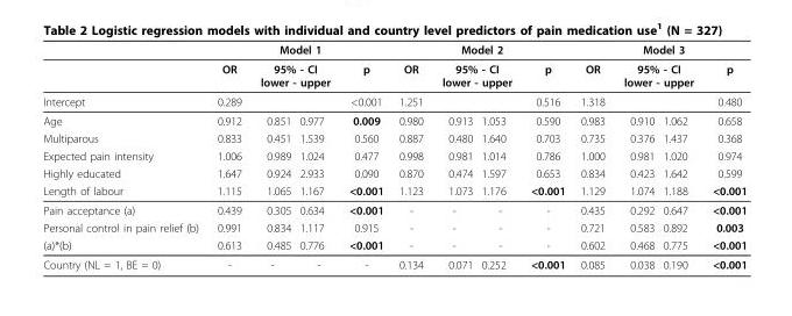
<table><thead><tr><td rowspan="3">Intercept</td><td colspan="4">Model 1</td><td colspan="4">Model 2</td><td colspan="4">Model 3</td></tr><tr><td rowspan="2">OR 0.289</td><td colspan="2">95% - CI lower - upper</td><td rowspan="2">p &lt;0.001</td><td rowspan="2">OR 1.251</td><td colspan="2">95% - CI lower - upper</td><td rowspan="2">p 0.516</td><td rowspan="2">OR 1.318</td><td colspan="2">95% - CI lower - upper</td><td rowspan="2">p 0.480</td></tr><tr><td></td><td></td><td></td><td></td><td></td><td></td></tr></thead><tbody><tr><td>Age</td><td>0.912</td><td>0.851</td><td>0.977</td><td>0.009</td><td>0.980</td><td>0.913</td><td>1.053</td><td>0.590</td><td>0.983</td><td>0.910</td><td>1.062</td><td>0.658</td></tr><tr><td>Multiparous</td><td>0.833</td><td>0.451</td><td>1.539</td><td>0.560</td><td>0.887</td><td>0.480</td><td>1.640</td><td>0.703</td><td>0.735</td><td>0.376</td><td>1.437</td><td>0.368</td></tr><tr><td>Expected pain intensity</td><td>1.006</td><td>0.989</td><td>1.024</td><td>0.477</td><td>0.998</td><td>0.981</td><td>1.014</td><td>0.786</td><td>1.000</td><td>0.981</td><td>1.020</td><td>0.974</td></tr><tr><td>Highly educated</td><td>1.647</td><td>0.924</td><td>2.933</td><td>0.090</td><td>0.870</td><td>0.474</td><td>1.597</td><td>0.653</td><td>0.834</td><td>0.423</td><td>1.642</td><td>0.599</td></tr><tr><td>Length of labour</td><td>1.115</td><td>1.065</td><td>1.167</td><td>&lt;0.001</td><td>1.123</td><td>1.073</td><td>1.176</td><td>&lt;0.001</td><td>1.129</td><td>1.074</td><td>1.188</td><td>&lt;0.001</td></tr><tr><td>Pain acceptance (a)</td><td>0.439</td><td>0.305</td><td>0.634</td><td>&lt;0.001</td><td>-</td><td>-</td><td>-</td><td>-</td><td>0.435</td><td>0.292</td><td>0.647</td><td>&lt;0.001</td></tr><tr><td>Personal control in pain relief (b)</td><td>0.991</td><td>0.834</td><td>1.117</td><td>0.915</td><td>-</td><td>-</td><td>-</td><td>-</td><td>0.721</td><td>0.583</td><td>0.892</td><td>0.003</td></tr><tr><td>(a)*(b)</td><td>0.613</td><td>0.485</td><td>0.776</td><td>&lt;0.001</td><td>-</td><td>-</td><td>-</td><td>-</td><td>0.602</td><td>0.468</td><td>0.775</td><td>&lt;0.001</td></tr><tr><td>Country (NL = 1, BE = 0)</td><td>-</td><td>-</td><td>-</td><td>-</td><td>0.134</td><td>0.071</td><td>0.252</td><td>&lt;0.001</td><td>0.085</td><td>0.038</td><td>0.190</td><td>&lt;0.001</td></tr></tbody></table>